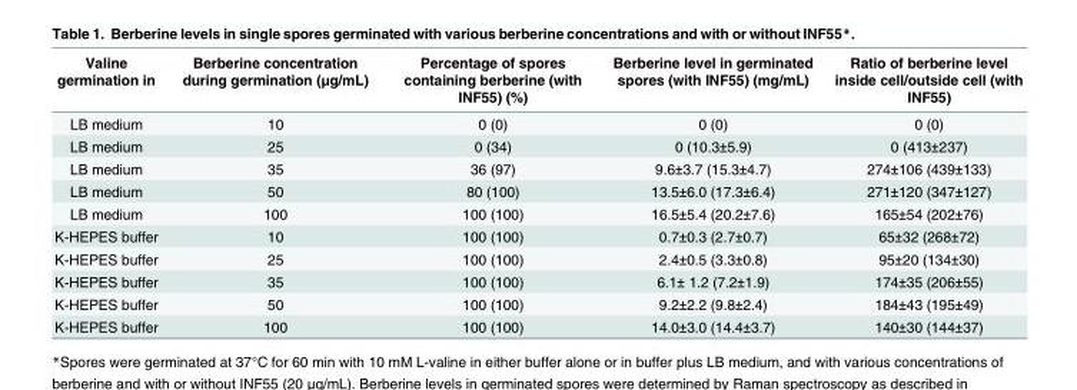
<table><thead><tr><td>Valine germination in</td><td>Berberine concentration during germination (μg/mL)</td><td>Percentage of spores containing berberine (with INF55) (%)</td><td>Berberine level in germinated spores (with INF55) (mg/mL)</td><td>Ratio of berberine level inside cell/outside cell (with INF55)</td></tr></thead><tbody><tr><td>LB medium</td><td>10</td><td>0 (0)</td><td>0 (0)</td><td>0 (0)</td></tr><tr><td>LB medium</td><td>25</td><td>0 (34)</td><td>0 (10.3±5.9)</td><td>0 (413±237)</td></tr><tr><td>LB medium</td><td>35</td><td>36 (97)</td><td>9.6±3.7 (15.3±4.7)</td><td>274±106 (439±133)</td></tr><tr><td>LB medium</td><td>50</td><td>80 (100)</td><td>13.5±6.0 (17.3±6.4)</td><td>271±120 (347±127)</td></tr><tr><td>LB medium</td><td>100</td><td>100 (100)</td><td>16.5±5.4 (20.2±7.6)</td><td>165±54 (202±76)</td></tr><tr><td>K-HEPES buffer</td><td>10</td><td>100 (100)</td><td>0.7±0.3 (2.7±0.7)</td><td>65±32 (268±72)</td></tr><tr><td>K-HEPES buffer</td><td>25</td><td>100 (100)</td><td>2.4±0.5 (3.3±0.8)</td><td>95±20 (134±30)</td></tr><tr><td>K-HEPES buffer</td><td>35</td><td>100 (100)</td><td>6.1± 1.2 (7.2±1.9)</td><td>174±35 (206±55)</td></tr><tr><td>K-HEPES buffer</td><td>50</td><td>100 (100)</td><td>9.2±2.2 (9.8±2.4)</td><td>184±43 (195±49)</td></tr><tr><td>K-HEPES buffer</td><td>100</td><td>100 (100)</td><td>14.0±3.0 (14.4±3.7)</td><td>140±30 (144±37)</td></tr></tbody></table>